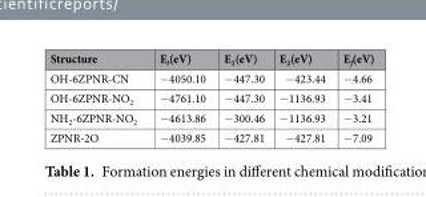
<table><thead><tr><td>Structure</td><td>E<sub>t</sub>(eV)</td><td>E<sub>1</sub>(eV)</td><td>E<sub>2</sub>(eV)</td><td>E<sub>f</sub>(eV)</td></tr></thead><tbody><tr><td>OH-6ZPNR-CN</td><td>−4050.10</td><td>−447.30</td><td>−423.44</td><td>−4.66</td></tr><tr><td>OH-6ZPNR-NO<sub>2</sub></td><td>−4761.10</td><td>−447.30</td><td>−1136.93</td><td>−3.41</td></tr><tr><td>NH<sub>2</sub>-6ZPNR-NO<sub>2</sub></td><td>−4613.86</td><td>−300.46</td><td>−1136.93</td><td>−3.21</td></tr><tr><td>ZPNR-2O</td><td>−4039.85</td><td>−427.81</td><td>−427.81</td><td>−7.09</td></tr></tbody></table>